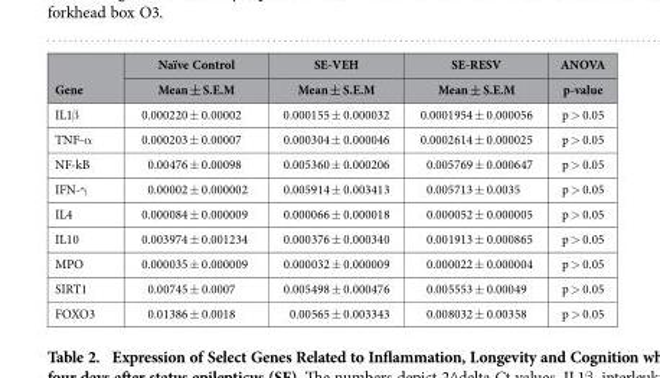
<table><thead><tr><td rowspan="2">Gene</td><td rowspan="2">Naïve Control Mean ± S.E.M</td><td rowspan="2">SE-VEH Mean ± S.E.M</td><td rowspan="2">SE-RESV Mean ± S.E.M</td><td rowspan="2">ANOVA p-value</td></tr><tr></tr></thead><tbody><tr><td>IL1β</td><td>0.000220 ± 0.00002</td><td>0.000155 ± 0.000032</td><td>0.0001954 ± 0.000056</td><td>p &gt; 0.05</td></tr><tr><td>TNF-α</td><td>0.000203 ± 0.00007</td><td>0.000304 ± 0.000046</td><td>0.0002614 ± 0.000025</td><td>p &gt; 0.05</td></tr><tr><td>NF-kB</td><td>0.00476 ± 0.00098</td><td>0.005360 ± 0.000206</td><td>0.005769 ± 0.000647</td><td>p &gt; 0.05</td></tr><tr><td>IFN-γ</td><td>0.00002 ± 0.000002</td><td>0.005914 ± 0.003413</td><td>0.005713 ± 0.0035</td><td>p &gt; 0.05</td></tr><tr><td>IL4</td><td>0.000084 ± 0.000009</td><td>0.000066 ± 0.000018</td><td>0.000052 ± 0.000005</td><td>p &gt; 0.05</td></tr><tr><td>IL10</td><td>0.003974 ± 0.001234</td><td>0.000376 ± 0.000340</td><td>0.001913 ± 0.000865</td><td>p &gt; 0.05</td></tr><tr><td>MPO</td><td>0.000035 ± 0.000009</td><td>0.000032 ± 0.000009</td><td>0.000022 ± 0.000004</td><td>p &gt; 0.05</td></tr><tr><td>SIRT1</td><td>0.00745 ± 0.0007</td><td>0.005498 ± 0.000476</td><td>0.005553 ± 0.00049</td><td>p &gt; 0.05</td></tr><tr><td>FOXO3</td><td>0.01386 ± 0.0018</td><td>0.00565 ± 0.003343</td><td>0.008032 ± 0.00358</td><td>p &gt; 0.05</td></tr></tbody></table>